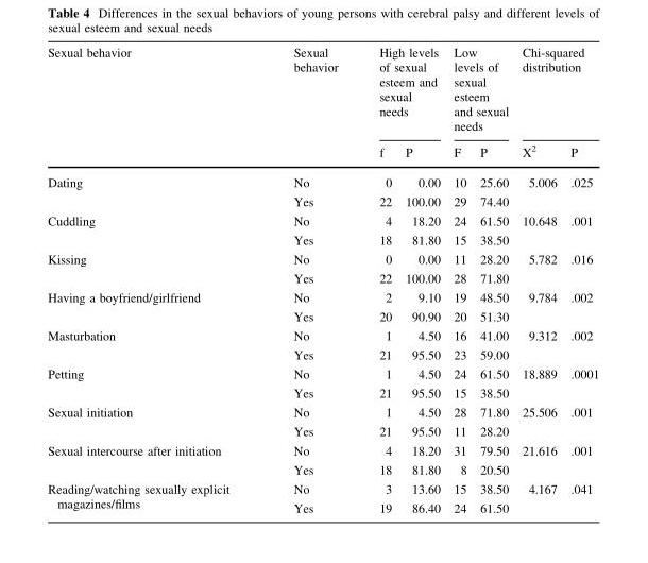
<table><thead><tr><td rowspan="2">Sexual behavior</td><td rowspan="2">Sexual behavior</td><td colspan="2">High levels of sexual esteem and sexual needs</td><td colspan="2">Low levels of sexual esteem and sexual needs</td><td colspan="2">Chi-squared distribution</td></tr><tr><td>f</td><td>P</td><td>F</td><td>P</td><td>X<sup>2</sup></td><td>P</td></tr></thead><tbody><tr><td rowspan="2">Dating</td><td>No</td><td>0</td><td>0.00</td><td>10</td><td>25.60</td><td>5.006</td><td>.025</td></tr><tr><td>Yes</td><td>22</td><td>100.00</td><td>29</td><td>74.40</td><td></td><td></td></tr><tr><td rowspan="2">Cuddling</td><td>No</td><td>4</td><td>18.20</td><td>24</td><td>61.50</td><td>10.648</td><td>.001</td></tr><tr><td>Yes</td><td>18</td><td>81.80</td><td>15</td><td>38.50</td><td></td><td></td></tr><tr><td rowspan="2">Kissing</td><td>No</td><td>0</td><td>0.00</td><td>11</td><td>28.20</td><td>5.782</td><td>.016</td></tr><tr><td>Yes</td><td>22</td><td>100.00</td><td>28</td><td>71.80</td><td></td><td></td></tr><tr><td rowspan="2">Having a boyfriend/girlfriend</td><td>No</td><td>2</td><td>9.10</td><td>19</td><td>48.50</td><td>9.784</td><td>.002</td></tr><tr><td>Yes</td><td>20</td><td>90.90</td><td>20</td><td>51.30</td><td></td><td></td></tr><tr><td rowspan="2">Masturbation</td><td>No</td><td>1</td><td>4.50</td><td>16</td><td>41.00</td><td>9.312</td><td>.002</td></tr><tr><td>Yes</td><td>21</td><td>95.50</td><td>23</td><td>59.00</td><td></td><td></td></tr><tr><td rowspan="2">Petting</td><td>No</td><td>1</td><td>4.50</td><td>24</td><td>61.50</td><td>18.889</td><td>.0001</td></tr><tr><td>Yes</td><td>21</td><td>95.50</td><td>15</td><td>38.50</td><td></td><td></td></tr><tr><td rowspan="2">Sexual initiation</td><td>No</td><td>1</td><td>4.50</td><td>28</td><td>71.80</td><td>25.506</td><td>.001</td></tr><tr><td>Yes</td><td>21</td><td>95.50</td><td>11</td><td>28.20</td><td></td><td></td></tr><tr><td rowspan="2">Sexual intercourse after initiation</td><td>No</td><td>4</td><td>18.20</td><td>31</td><td>79.50</td><td>21.616</td><td>.001</td></tr><tr><td>Yes</td><td>18</td><td>81.80</td><td>8</td><td>20.50</td><td></td><td></td></tr><tr><td rowspan="2">Reading/watching sexually explicit magazines/films</td><td>No</td><td>3</td><td>13.60</td><td>15</td><td>38.50</td><td>4.167</td><td>.041</td></tr><tr><td>Yes</td><td>19</td><td>86.40</td><td>24</td><td>61.50</td><td></td><td></td></tr></tbody></table>